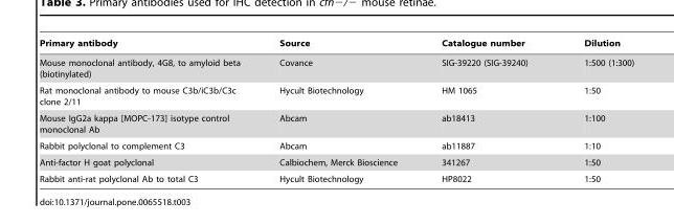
<table><thead><tr><td>Primary antibody</td><td>Source</td><td>Catalogue number</td><td>Dilution</td></tr></thead><tbody><tr><td>Mouse monoclonal antibody, 4G8, to amyloid beta (biotinylated)</td><td>Covance</td><td>SIG-39220 (SIG-39240)</td><td>1:500 (1:300)</td></tr><tr><td>Rat monoclonal antibody to mouse C3b/iC3b/C3c clone 2/11</td><td>Hycult Biotechnology</td><td>HM 1065</td><td>1:50</td></tr><tr><td>Mouse IgG2a kappa [MOPC-173] isotype control monoclonal Ab</td><td>Abcam</td><td>ab18413</td><td>1:100</td></tr><tr><td>Rabbit polyclonal to complement C3</td><td>Abcam</td><td>ab11887</td><td>1:10</td></tr><tr><td>Anti-factor H goat polyclonal</td><td>Calbiochem, Merck Bioscience</td><td>341267</td><td>1:50</td></tr><tr><td>Rabbit anti-rat polyclonal Ab to total C3</td><td>Hycult Biotechnology</td><td>HP8022</td><td>1:50</td></tr></tbody></table>